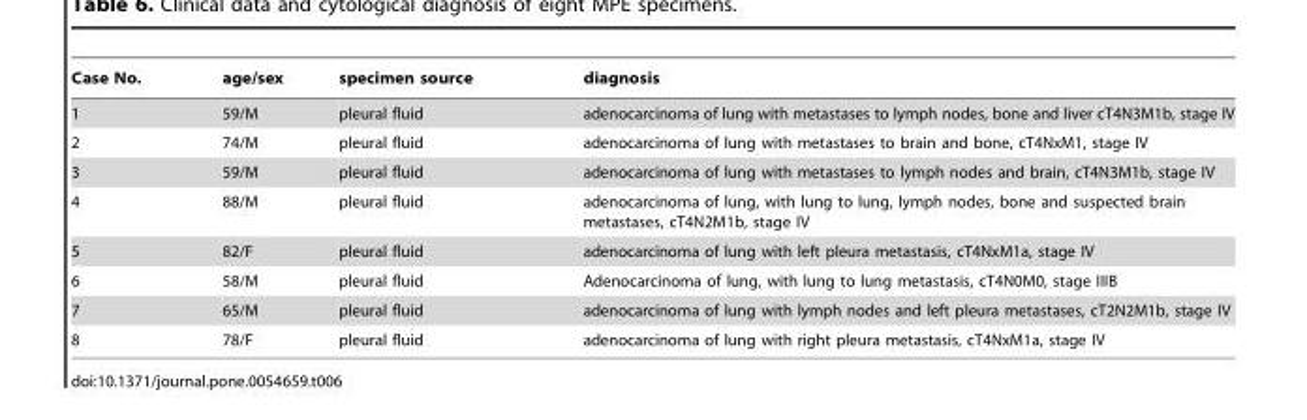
<table><thead><tr><td>Case No.</td><td>age/sex</td><td>specimen source</td><td>diagnosis</td></tr></thead><tbody><tr><td>1</td><td>59/M</td><td>pleural fluid</td><td>adenocarcinoma of lung with metastases to lymph nodes, bone and liver cT4N3M1b, stage IV</td></tr><tr><td>2</td><td>74/M</td><td>pleural fluid</td><td>adenocarcinoma of lung with metastases to brain and bone, cT4NxM1, stage IV</td></tr><tr><td>3</td><td>59/M</td><td>pleural fluid</td><td>adenocarcinoma of lung with metastases to lymph nodes and brain, cT4N3M1b, stage IV</td></tr><tr><td>4</td><td>88/M</td><td>pleural fluid</td><td>adenocarcinoma of lung, with lung to lung, lymph nodes, bone and suspected brain metastases, cT4N2M1b, stage IV</td></tr><tr><td>5</td><td>82/F</td><td>pleural fluid</td><td>adenocarcinoma of lung with left pleura metastasis, cT4NxM1a, stage IV</td></tr><tr><td>6</td><td>58/M</td><td>pleural fluid</td><td>Adenocarcinoma of lung, with lung to lung metastasis, cT4N0M0, stage IIIB</td></tr><tr><td>7</td><td>65/M</td><td>pleural fluid</td><td>adenocarcinoma of lung with lymph nodes and left pleura metastases, cT2N2M1b, stage IV</td></tr><tr><td>8</td><td>78/F</td><td>pleural fluid</td><td>adenocarcinoma of lung with right pleura metastasis, cT4NxM1a, stage IV</td></tr></tbody></table>